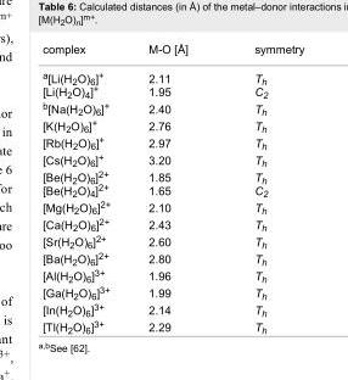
<table><tbody><tr><td>complex</td><td>M-O [Å]</td><td>symmetry</td></tr><tr><td><sup>a</sup>[Li(H<sub>2</sub>O)<sub>6</sub>]<sup>+</sup> [Li(H<sub>2</sub>O)<sub>4</sub>]<sup>+</sup></td><td>2.11 1.95</td><td>T<sub>h</sub> C<sub>2</sub></td></tr><tr><td><sup>b</sup>[Na(H<sub>2</sub>O)<sub>6</sub>]<sup>+</sup></td><td>2.40</td><td>T<sub>h</sub></td></tr><tr><td>[K(H<sub>2</sub>O)<sub>6</sub>]<sup>+</sup></td><td>2.76</td><td>T<sub>h</sub></td></tr><tr><td>[Rb(H<sub>2</sub>O)<sub>6</sub>]<sup>+</sup></td><td>2.97</td><td>T<sub>h</sub></td></tr><tr><td>[Cs(H<sub>2</sub>O)<sub>6</sub>]<sup>+</sup></td><td>3.20</td><td>T<sub>h</sub></td></tr><tr><td>[Be(H<sub>2</sub>O)<sub>6</sub>]<sup>2+</sup> [Be(H<sub>2</sub>O)<sub>4</sub>]<sup>2+</sup></td><td>1.85 1.65</td><td>T<sub>h</sub> C<sub>2</sub></td></tr><tr><td>[Mg(H<sub>2</sub>O)<sub>6</sub>]<sup>2+</sup></td><td>2.10</td><td>T<sub>h</sub></td></tr><tr><td>[Ca(H<sub>2</sub>O)<sub>6</sub>]<sup>2+</sup></td><td>2.43</td><td>T<sub>h</sub></td></tr><tr><td>[Sr(H<sub>2</sub>O)<sub>6</sub>]<sup>2+</sup></td><td>2.60</td><td>T<sub>h</sub></td></tr><tr><td>[Ba(H<sub>2</sub>O)<sub>6</sub>]<sup>2+</sup></td><td>2.80</td><td>T<sub>h</sub></td></tr><tr><td>[Al(H<sub>2</sub>O)<sub>6</sub>]<sup>3+</sup></td><td>1.96</td><td>T<sub>h</sub></td></tr><tr><td>[Ga(H<sub>2</sub>O)<sub>6</sub>]<sup>3+</sup></td><td>1.99</td><td>T<sub>h</sub></td></tr><tr><td>[In(H<sub>2</sub>O)<sub>6</sub>]<sup>3+</sup></td><td>2.14</td><td>T<sub>h</sub></td></tr><tr><td>[Tl(H<sub>2</sub>O)<sub>6</sub>]<sup>3+</sup></td><td>2.29</td><td>T<sub>h</sub></td></tr></tbody></table>